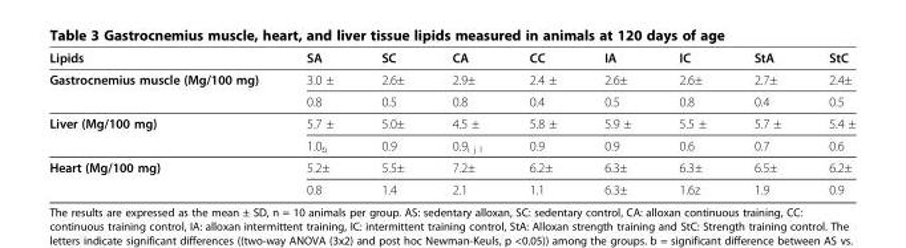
<table><thead><tr><td>Lipids</td><td>SA</td><td>SC</td><td>CA</td><td>CC</td><td>IA</td><td>IC</td><td>StA</td><td>StC</td></tr></thead><tbody><tr><td rowspan="2">Gastrocnemius muscle (Mg/100 mg)</td><td>3.0 ±</td><td>2.6±</td><td>2.9±</td><td>2.4 ±</td><td>2.6±</td><td>2.6±</td><td>2.7±</td><td>2.4±</td></tr><tr><td>0.8</td><td>0.5</td><td>0.8</td><td>0.4</td><td>0.5</td><td>0.8</td><td>0.4</td><td>0.5</td></tr><tr><td rowspan="2">Liver (Mg/100 mg)</td><td>5.7 ±</td><td>5.0±</td><td>4.5 ±</td><td>5.8 ±</td><td>5.9 ±</td><td>5.5 ±</td><td>5.7 ±</td><td>5.4 ±</td></tr><tr><td>1.0<sub>b</sub></td><td>0.9</td><td>0.9<sub>i j l</sub></td><td>0.9</td><td>0.9</td><td>0.6</td><td>0.7</td><td>0.6</td></tr><tr><td rowspan="2">Heart (Mg/100 mg)</td><td>5.2±</td><td>5.5±</td><td>7.2±</td><td>6.2±</td><td>6.3±</td><td>6.3±</td><td>6.5±</td><td>6.2±</td></tr><tr><td>0.8</td><td>1.4</td><td>2.1</td><td>1.1</td><td>6.3±</td><td>1.6z</td><td>1.9</td><td>0.9</td></tr></tbody></table>